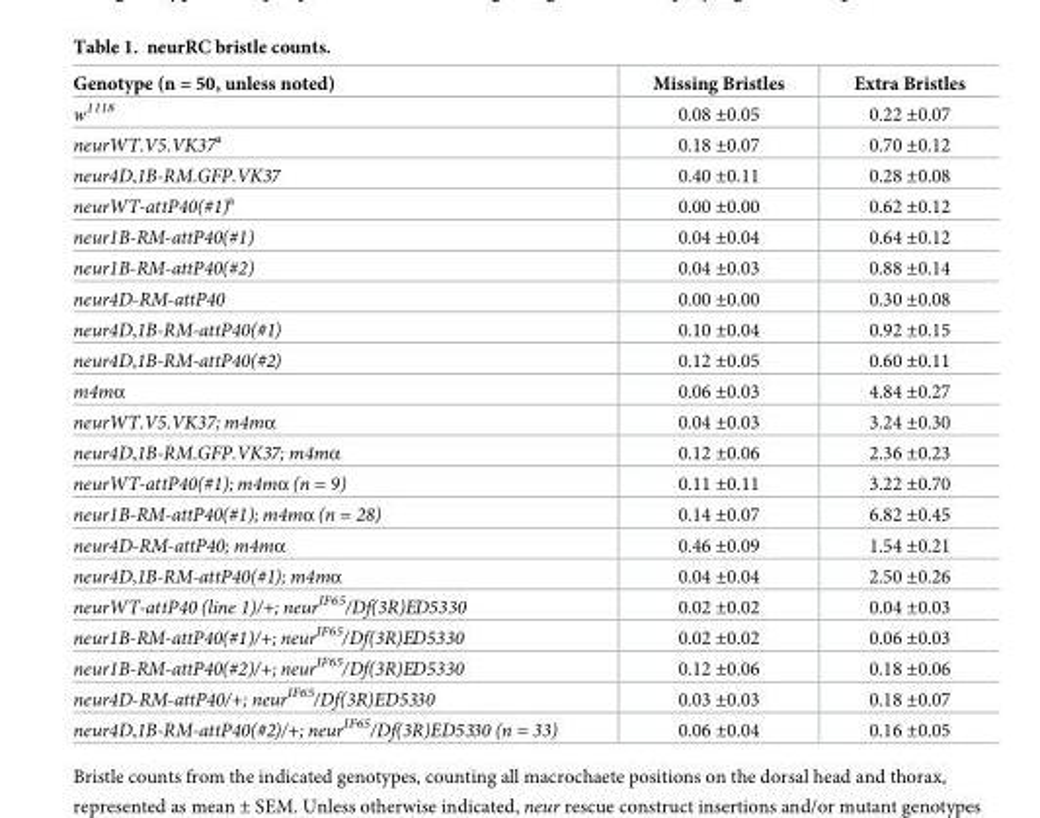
<table><thead><tr><td>Genotype (n = 50, unless noted)</td><td>Missing Bristles</td><td>Extra Bristles</td></tr></thead><tbody><tr><td>w<sup>1118</sup></td><td>0.08 ±0.05</td><td>0.22 ±0.07</td></tr><tr><td>neurWT.V5.VK37<sup>a</sup></td><td>0.18 ±0.07</td><td>0.70 ±0.12</td></tr><tr><td>neur4D,1B-RM.GFP.VK37</td><td>0.40 ±0.11</td><td>0.28 ±0.08</td></tr><tr><td>neurWT-attP40(#1)<sup>a</sup></td><td>0.00 ±0.00</td><td>0.62 ±0.12</td></tr><tr><td>neur1B-RM-attP40(#1)</td><td>0.04 ±0.04</td><td>0.64 ±0.12</td></tr><tr><td>neur1B-RM-attP40(#2)</td><td>0.04 ±0.03</td><td>0.88 ±0.14</td></tr><tr><td>neur4D-RM-attP40</td><td>0.00 ±0.00</td><td>0.30 ±0.08</td></tr><tr><td>neur4D,1B-RM-attP40(#1)</td><td>0.10 ±0.04</td><td>0.92 ±0.15</td></tr><tr><td>neur4D,1B-RM-attP40(#2)</td><td>0.12 ±0.05</td><td>0.60 ±0.11</td></tr><tr><td>m4mα</td><td>0.06 ±0.03</td><td>4.84 ±0.27</td></tr><tr><td>neurWT.V5.VK37; m4mα</td><td>0.04 ±0.03</td><td>3.24 ±0.30</td></tr><tr><td>neur4D,1B-RM.GFP.VK37; m4mα</td><td>0.12 ±0.06</td><td>2.36 ±0.23</td></tr><tr><td>neurWT-attP40(#1); m4mα (n = 9)</td><td>0.11 ±0.11</td><td>3.22 ±0.70</td></tr><tr><td>neur1B-RM-attP40(#1); m4mα (n = 28)</td><td>0.14 ±0.07</td><td>6.82 ±0.45</td></tr><tr><td>neur4D-RM-attP40; m4mα</td><td>0.46 ±0.09</td><td>1.54 ±0.21</td></tr><tr><td>neur4D,1B-RM-attP40(#1); m4mα</td><td>0.04 ±0.04</td><td>2.50 ±0.26</td></tr><tr><td>neurWT-attP40 (line 1)/+; neur<sup>IF65</sup>/Df(3R)ED5330</td><td>0.02 ±0.02</td><td>0.04 ±0.03</td></tr><tr><td>neur1B-RM-attP40(#1)/+; neur<sup>IF65</sup>/Df(3R)ED5330</td><td>0.02 ±0.02</td><td>0.06 ±0.03</td></tr><tr><td>neur1B-RM-attP40(#2)/+; neur<sup>IF65</sup>/Df(3R)ED5330</td><td>0.12 ±0.06</td><td>0.18 ±0.06</td></tr><tr><td>neur4D-RM-attP40/+; neur<sup>IF65</sup>/Df(3R)ED5330</td><td>0.03 ±0.03</td><td>0.18 ±0.07</td></tr><tr><td>neur4D,1B-RM-attP40(#2)/+; neur<sup>IF65</sup>/Df(3R)ED5330 (n = 33)</td><td>0.06 ±0.04</td><td>0.16 ±0.05</td></tr></tbody></table>